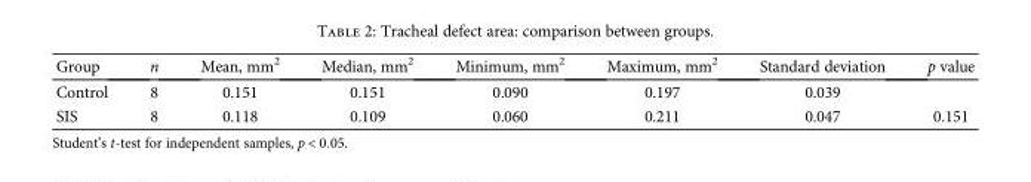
<table><thead><tr><td>Group</td><td>n</td><td>Mean, mm<sup>2</sup></td><td>Median, mm<sup>2</sup></td><td>Minimum, mm<sup>2</sup></td><td>Maximum, mm<sup>2</sup></td><td>Standard deviation</td><td>p value</td></tr></thead><tbody><tr><td>Control</td><td>8</td><td>0.151</td><td>0.151</td><td>0.090</td><td>0.197</td><td>0.039</td><td></td></tr><tr><td>SIS</td><td>8</td><td>0.118</td><td>0.109</td><td>0.060</td><td>0.211</td><td>0.047</td><td>0.151</td></tr></tbody></table>